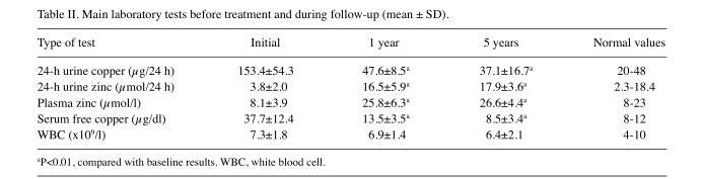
<table><thead><tr><td>Type of test</td><td>Initial</td><td>1 year</td><td>5 years</td><td>Normal values</td></tr></thead><tbody><tr><td>24-h urine copper (µg/24 h)</td><td>153.4±54.3</td><td>47.6±8.5<sup>a</sup></td><td>37.1±16.7<sup>a</sup></td><td>20-48</td></tr><tr><td>24-h urine zinc (µmol/24 h)</td><td>3.8±2.0</td><td>16.5±5.9<sup>a</sup></td><td>17.9±3.6<sup>a</sup></td><td>2.3-18.4</td></tr><tr><td>Plasma zinc (µmol/l)</td><td>8.1±3.9</td><td>25.8±6.3<sup>a</sup></td><td>26.6±4.4<sup>a</sup></td><td>8-23</td></tr><tr><td>Serum free copper (µg/dl)</td><td>37.7±12.4</td><td>13.5±3.5<sup>a</sup></td><td>8.5±3.4<sup>a</sup></td><td>8-12</td></tr><tr><td>WBC (x109/l)</td><td>7.3±1.8</td><td>6.9±1.4</td><td>6.4±2.1</td><td>4-10</td></tr></tbody></table>